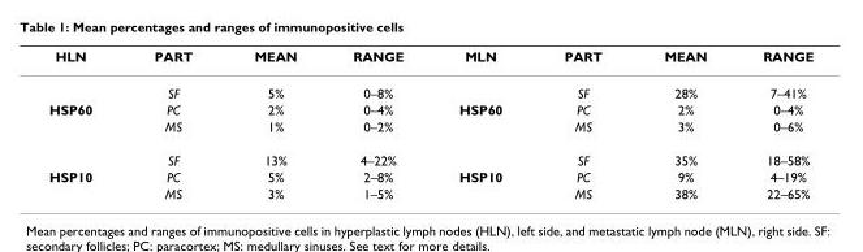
<table><thead><tr><td>HLN</td><td>PART</td><td>MEAN</td><td>RANGE</td><td>MLN</td><td>PART</td><td>MEAN</td><td>RANGE</td></tr></thead><tbody><tr><td></td><td>SF</td><td>5%</td><td>0–8%</td><td></td><td>SF</td><td>28%</td><td>7–41%</td></tr><tr><td rowspan="3">HSP60</td><td>PC</td><td>2%</td><td>0–4%</td><td>HSP60</td><td>PC</td><td>2%</td><td>0–4%</td></tr><tr><td>MS</td><td>1%</td><td>0–2%</td><td></td><td>MS</td><td>3%</td><td>0–6%</td></tr><tr><td>SF</td><td>13%</td><td>4–22%</td><td></td><td>SF</td><td>35%</td><td>18–58%</td></tr><tr><td rowspan="2">HSP10</td><td>PC</td><td>5%</td><td>2–8%</td><td>HSP10</td><td>PC</td><td>9%</td><td>4–19%</td></tr><tr><td>MS</td><td>3%</td><td>1–5%</td><td></td><td>MS</td><td>38%</td><td>22–65%</td></tr></tbody></table>